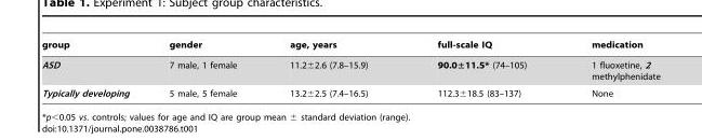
<table><thead><tr><td>group</td><td>gender</td><td>age, years</td><td>full-scale IQ</td><td>medication</td></tr></thead><tbody><tr><td>ASD</td><td>7 male, 1 female</td><td>11.2±2.6 (7.8–15.9)</td><td>90.0±11.5* (74–105)</td><td>1 fluoxetine, 2 methylphenidate</td></tr><tr><td>Typically developing</td><td>5 male, 5 female</td><td>13.2±2.5 (7.4–16.5)</td><td>112.3±18.5 (83–137)</td><td>None</td></tr></tbody></table>